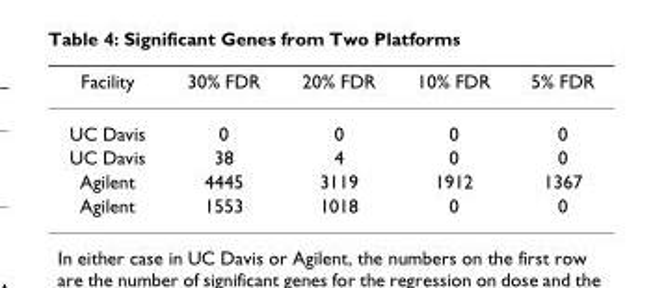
<table><thead><tr><td>Facility</td><td>30% FDR</td><td>20% FDR</td><td>10% FDR</td><td>5% FDR</td></tr></thead><tbody><tr><td>UC Davis</td><td>0</td><td>0</td><td>0</td><td>0</td></tr><tr><td>UC Davis</td><td>38</td><td>4</td><td>0</td><td>0</td></tr><tr><td>Agilent</td><td>4445</td><td>3119</td><td>1912</td><td>1367</td></tr><tr><td>Agilent</td><td>1553</td><td>1018</td><td>0</td><td>0</td></tr></tbody></table>